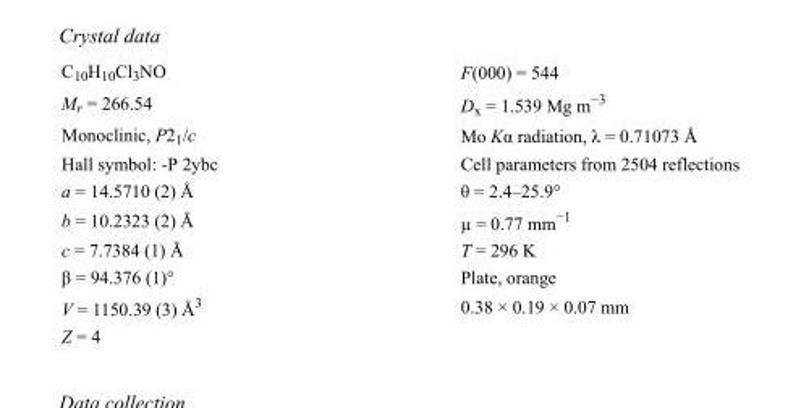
<table><tbody><tr><td>C<sub>10</sub>H<sub>10</sub>Cl<sub>3</sub>NO</td><td>F(000) = 544</td></tr><tr><td>M<sub>r</sub> = 266.54</td><td>D<sub>x</sub> = 1.539 Mg m<sup>−3</sup></td></tr><tr><td>Monoclinic, P2<sub>1</sub>/c</td><td>Mo Kα radiation, λ = 0.71073 Å</td></tr><tr><td>Hall symbol: -P 2ybc</td><td>Cell parameters from 2504 reflections</td></tr><tr><td>a = 14.5710 (2) Å</td><td>θ = 2.4–25.9°</td></tr><tr><td>b = 10.2323 (2) Å</td><td>µ = 0.77 mm<sup>−1</sup></td></tr><tr><td>c = 7.7384 (1) Å</td><td>T = 296 K</td></tr><tr><td>β = 94.376 (1)°</td><td>Plate, orange</td></tr><tr><td>V = 1150.39 (3) Å<sup>3</sup></td><td>0.38 × 0.19 × 0.07 mm</td></tr><tr><td>Z = 4</td><td></td></tr></tbody></table>